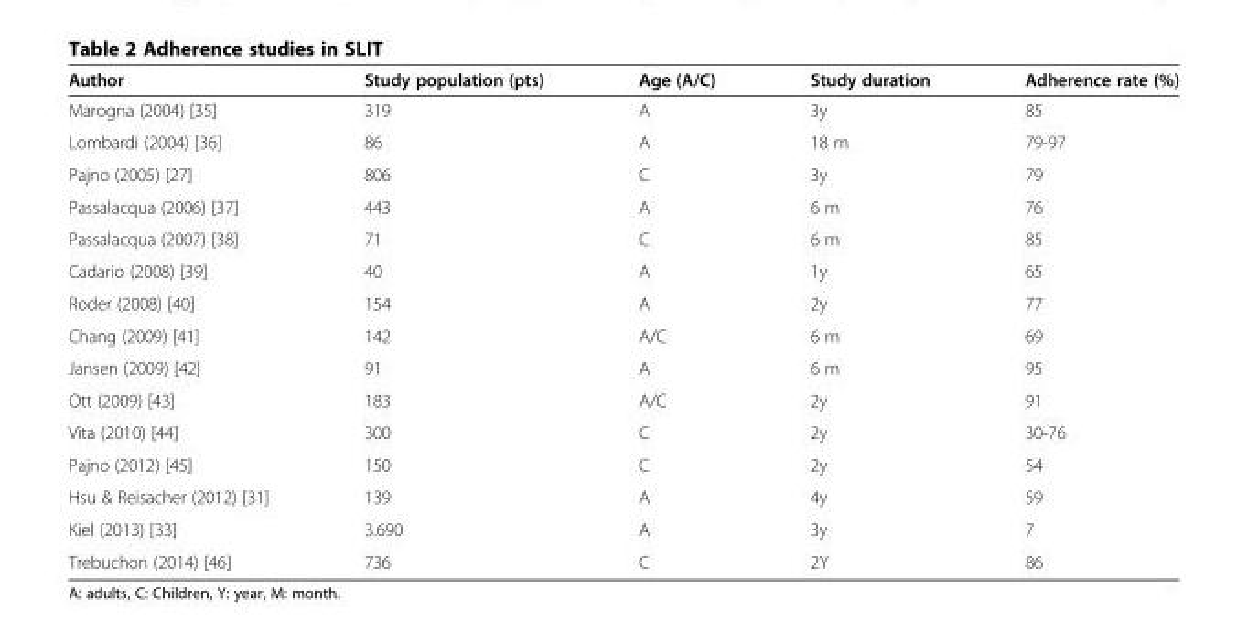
<table><thead><tr><td>Author</td><td>Study population (pts)</td><td>Age (A/C)</td><td>Study duration</td><td>Adherence rate (%)</td></tr></thead><tbody><tr><td>Marogna (2004) [35]</td><td>319</td><td>A</td><td>3y</td><td>85</td></tr><tr><td>Lombardi (2004) [36]</td><td>86</td><td>A</td><td>18 m</td><td>79-97</td></tr><tr><td>Pajno (2005) [27]</td><td>806</td><td>C</td><td>3y</td><td>79</td></tr><tr><td>Passalacqua (2006) [37]</td><td>443</td><td>A</td><td>6 m</td><td>76</td></tr><tr><td>Passalacqua (2007) [38]</td><td>71</td><td>C</td><td>6 m</td><td>85</td></tr><tr><td>Cadario (2008) [39]</td><td>40</td><td>A</td><td>1y</td><td>65</td></tr><tr><td>Roder (2008) [40]</td><td>154</td><td>A</td><td>2y</td><td>77</td></tr><tr><td>Chang (2009) [41]</td><td>142</td><td>A/C</td><td>6 m</td><td>69</td></tr><tr><td>Jansen (2009) [42]</td><td>91</td><td>A</td><td>6 m</td><td>95</td></tr><tr><td>Ott (2009) [43]</td><td>183</td><td>A/C</td><td>2y</td><td>91</td></tr><tr><td>Vita (2010) [44]</td><td>300</td><td>C</td><td>2y</td><td>30-76</td></tr><tr><td>Pajno (2012) [45]</td><td>150</td><td>C</td><td>2y</td><td>54</td></tr><tr><td>Hsu &amp; Reisacher (2012) [31]</td><td>139</td><td>A</td><td>4y</td><td>59</td></tr><tr><td>Kiel (2013) [33]</td><td>3.690</td><td>A</td><td>3y</td><td>7</td></tr><tr><td>Trebuchon (2014) [46]</td><td>736</td><td>C</td><td>2Y</td><td>86</td></tr></tbody></table>